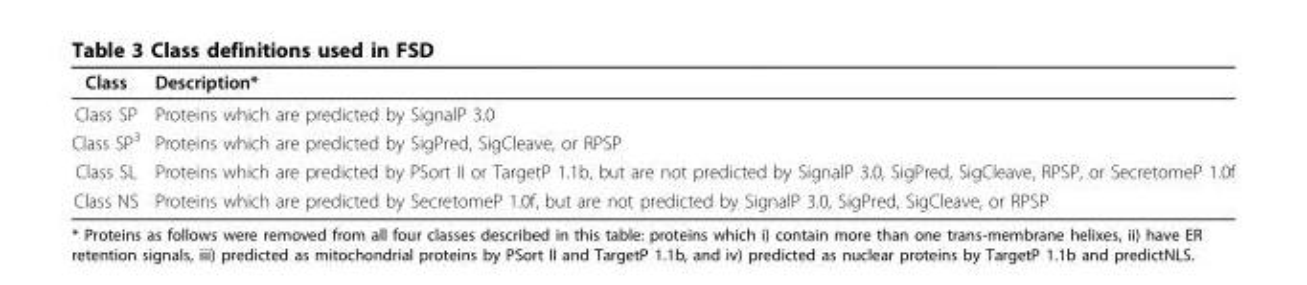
<table><thead><tr><td>Class</td><td>Description*</td></tr></thead><tbody><tr><td>Class SP</td><td>Proteins which are predicted by SignalP 3.0</td></tr><tr><td>Class SP<sup>3</sup></td><td>Proteins which are predicted by SigPred, SigCleave, or RPSP</td></tr><tr><td>Class SL</td><td>Proteins which are predicted by PSort II or TargetP 1.1b, but are not predicted by SignalP 3.0, SigPred, SigCleave, RPSP, or SecretomeP 1.0f</td></tr><tr><td>Class NS</td><td>Proteins which are predicted by SecretomeP 1.0f, but are not predicted by SignalP 3.0, SigPred, SigCleave, or RPSP</td></tr></tbody></table>